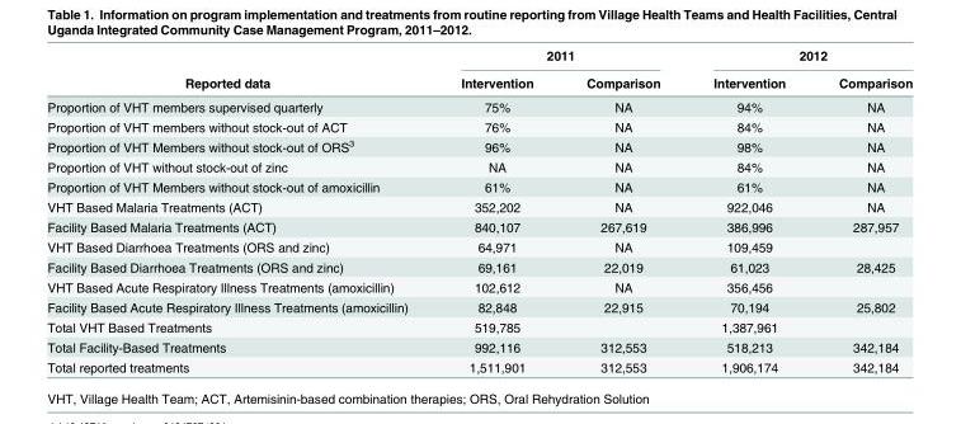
<table><thead><tr><td rowspan="2">Reported data</td><td colspan="2">2011</td><td colspan="2">2012</td></tr><tr><td>Intervention</td><td>Comparison</td><td>Intervention</td><td>Comparison</td></tr></thead><tbody><tr><td>Proportion of VHT members supervised quarterly</td><td>75%</td><td>NA</td><td>94%</td><td>NA</td></tr><tr><td>Proportion of VHT members without stock-out of ACT</td><td>76%</td><td>NA</td><td>84%</td><td>NA</td></tr><tr><td>Proportion of VHT Members without stock-out of ORS<sup>3</sup></td><td>96%</td><td>NA</td><td>98%</td><td>NA</td></tr><tr><td>Proportion of VHT without stock-out of zinc</td><td>NA</td><td>NA</td><td>84%</td><td>NA</td></tr><tr><td>Proportion of VHT Members without stock-out of amoxicillin</td><td>61%</td><td>NA</td><td>61%</td><td>NA</td></tr><tr><td>VHT Based Malaria Treatments (ACT)</td><td>352,202</td><td>NA</td><td>922,046</td><td>NA</td></tr><tr><td>Facility Based Malaria Treatments (ACT)</td><td>840,107</td><td>267,619</td><td>386,996</td><td>287,957</td></tr><tr><td>VHT Based Diarrhoea Treatments (ORS and zinc)</td><td>64,971</td><td>NA</td><td>109,459</td><td></td></tr><tr><td>Facility Based Diarrhoea Treatments (ORS and zinc)</td><td>69,161</td><td>22,019</td><td>61,023</td><td>28,425</td></tr><tr><td>VHT Based Acute Respiratory Illness Treatments (amoxicillin)</td><td>102,612</td><td>NA</td><td>356,456</td><td></td></tr><tr><td>Facility Based Acute Respiratory Illness Treatments (amoxicillin)</td><td>82,848</td><td>22,915</td><td>70,194</td><td>25,802</td></tr><tr><td>Total VHT Based Treatments</td><td>519,785</td><td></td><td>1,387,961</td><td></td></tr><tr><td>Total Facility-Based Treatments</td><td>992,116</td><td>312,553</td><td>518,213</td><td>342,184</td></tr><tr><td>Total reported treatments</td><td>1,511,901</td><td>312,553</td><td>1,906,174</td><td>342,184</td></tr></tbody></table>